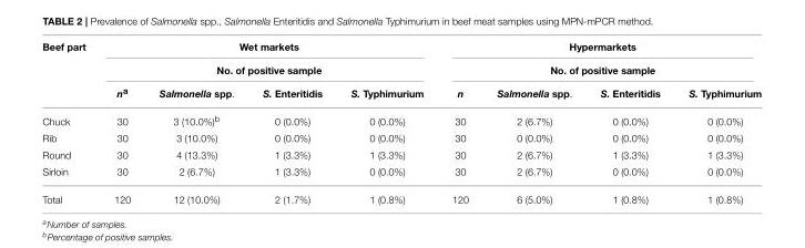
<table><thead><tr><td rowspan="3">Beef part</td><td rowspan="2" colspan="4">Wet markets No. of positive sample</td><td rowspan="2" colspan="4">Hypermarkets No. of positive sample</td></tr><tr></tr><tr><td>n<sup>a</sup></td><td>Salmonella spp.</td><td>S. Enteritidis</td><td>S. Typhimurium</td><td>n</td><td>Salmonella spp.</td><td>S. Enteritidis</td><td>S. Typhimurium</td></tr></thead><tbody><tr><td>Chuck</td><td>30</td><td>3 (10.0%)<sup>b</sup></td><td>0 (0.0%)</td><td>0 (0.0%)</td><td>30</td><td>2 (6.7%)</td><td>0 (0.0%)</td><td>0 (0.0%)</td></tr><tr><td>Rib</td><td>30</td><td>3 (10.0%)</td><td>0 (0.0%)</td><td>0 (0.0%)</td><td>30</td><td>0 (0.0%)</td><td>0 (0.0%)</td><td>0 (0.0%)</td></tr><tr><td>Round</td><td>30</td><td>4 (13.3%)</td><td>1 (3.3%)</td><td>1 (3.3%)</td><td>30</td><td>2 (6.7%)</td><td>1 (3.3%)</td><td>1 (3.3%)</td></tr><tr><td>Sirloin</td><td>30</td><td>2 (6.7%)</td><td>1 (3.3%)</td><td>0 (0.0%)</td><td>30</td><td>2 (6.7%)</td><td>0 (0.0%)</td><td>0 (0.0%)</td></tr><tr><td>Total</td><td>120</td><td>12 (10.0%)</td><td>2 (1.7%)</td><td>1 (0.8%)</td><td>120</td><td>6 (5.0%)</td><td>1 (0.8%)</td><td>1 (0.8%)</td></tr></tbody></table>